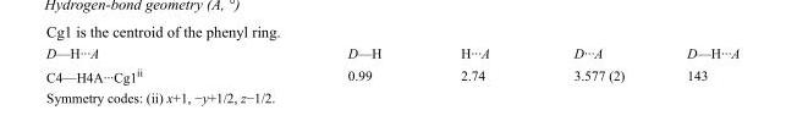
<table><tbody><tr><td>D—H···A</td><td>D—H</td><td>H···A</td><td>D···A</td><td>D—H···A</td></tr><tr><td>C4—H4A···Cg1<sup>ii</sup></td><td>0.99</td><td>2.74</td><td>3.577 (2)</td><td>143</td></tr></tbody></table>